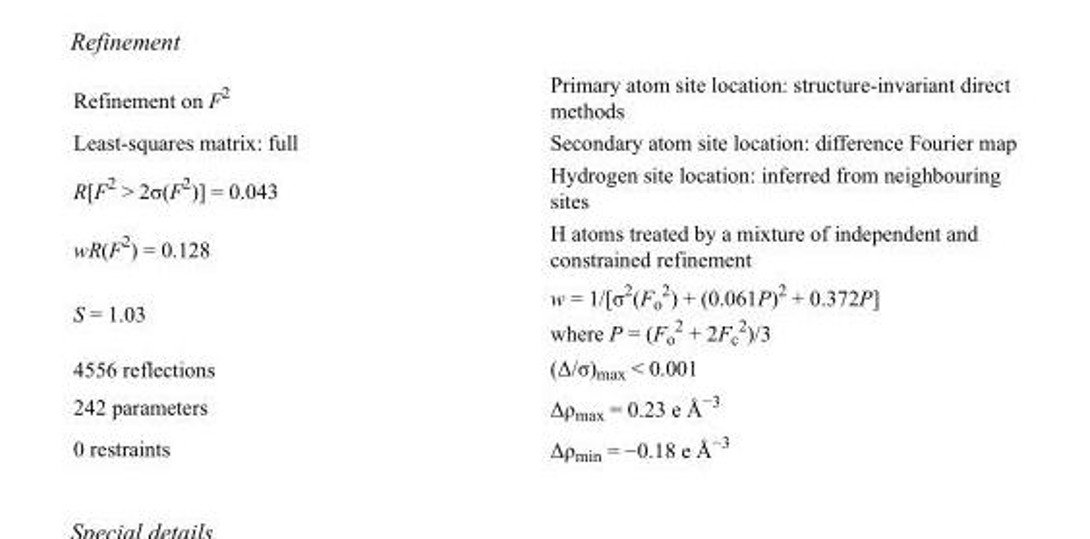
<table><tbody><tr><td>Refinement on F<sup>2</sup></td><td>Primary atom site location: structure-invariant direct methods</td></tr><tr><td>Least-squares matrix: full</td><td>Secondary atom site location: difference Fourier map</td></tr><tr><td>R[F<sup>2</sup> &gt; 2σ(F<sup>2</sup>)] = 0.043</td><td>Hydrogen site location: inferred from neighbouring sites</td></tr><tr><td>wR(F<sup>2</sup>) = 0.128</td><td>H atoms treated by a mixture of independent and constrained refinement</td></tr><tr><td>S = 1.03</td><td>w = 1/[σ<sup>2</sup>(F<sub>o</sub> <sup>2</sup>) + (0.061P)<sup>2</sup> + 0.372P] where P = (F<sub>o</sub> <sup>2</sup> + 2F<sub>c</sub> <sup>2</sup>)/3</td></tr><tr><td>4556 reflections</td><td>(Δ/σ)<sub>max</sub> &lt; 0.001</td></tr><tr><td>242 parameters</td><td>Δρ<sub>max</sub> = 0.23 e Å<sup>−3</sup></td></tr><tr><td>0 restraints</td><td>Δρmin = −0.18 e Å−3</td></tr></tbody></table>